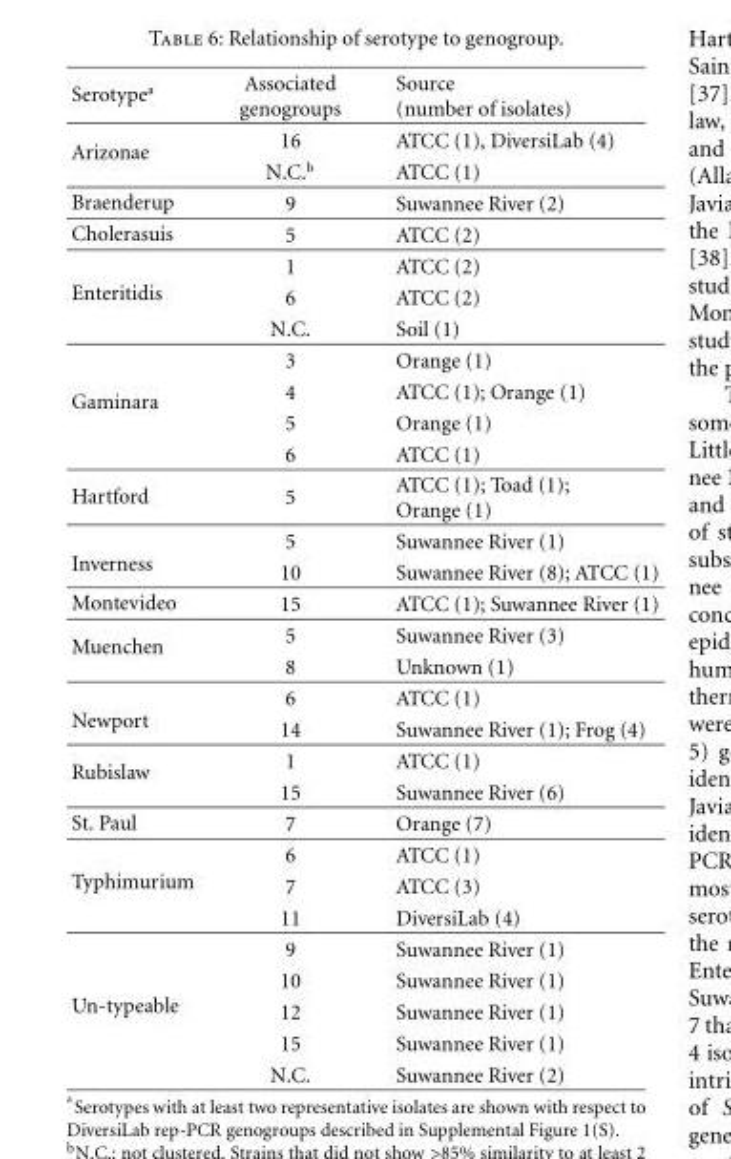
<table><thead><tr><td>Serotypea</td><td>Associated genogroups</td><td>Source (number of isolates)</td></tr></thead><tbody><tr><td rowspan="2">Arizonae</td><td>16</td><td>ATCC (1), DiversiLab (4)</td></tr><tr><td>N.C.b</td><td>ATCC (1)</td></tr><tr><td>Braenderup</td><td>9</td><td>Suwannee River (2)</td></tr><tr><td>Cholerasuis</td><td>5</td><td>ATCC (2)</td></tr><tr><td rowspan="3">Enteritidis</td><td>1</td><td>ATCC (2)</td></tr><tr><td>6</td><td>ATCC (2)</td></tr><tr><td>N.C.</td><td>Soil (1)</td></tr><tr><td rowspan="4">Gaminara</td><td>3</td><td>Orange (1)</td></tr><tr><td>4</td><td>ATCC (1); Orange (1)</td></tr><tr><td>5</td><td>Orange (1)</td></tr><tr><td>6</td><td>ATCC (1)</td></tr><tr><td>Hartford</td><td>5</td><td>ATCC (1); Toad (1); Orange (1)</td></tr><tr><td rowspan="2">Inverness</td><td>5</td><td>Suwannee River (1)</td></tr><tr><td>10</td><td>Suwannee River (8); ATCC (1)</td></tr><tr><td>Montevideo</td><td>15</td><td>ATCC (1); Suwannee River (1)</td></tr><tr><td rowspan="2">Muenchen</td><td>5</td><td>Suwannee River (3)</td></tr><tr><td>8</td><td>Unknown (1)</td></tr><tr><td rowspan="2">Newport</td><td>6</td><td>ATCC (1)</td></tr><tr><td>14</td><td>Suwannee River (1); Frog (4)</td></tr><tr><td rowspan="2">Rubislaw</td><td>1</td><td>ATCC (1)</td></tr><tr><td>15</td><td>Suwannee River (6)</td></tr><tr><td>St. Paul</td><td>7</td><td>Orange (7)</td></tr><tr><td rowspan="3">Typhimurium</td><td>6</td><td>ATCC (1)</td></tr><tr><td>7</td><td>ATCC (3)</td></tr><tr><td>11</td><td>DiversiLab (4)</td></tr><tr><td rowspan="5">Un-typeable</td><td>9</td><td>Suwannee River (1)</td></tr><tr><td>10</td><td>Suwannee River (1)</td></tr><tr><td>12</td><td>Suwannee River (1)</td></tr><tr><td>15</td><td>Suwannee River (1)</td></tr><tr><td>N.C.</td><td>Suwannee River (2)</td></tr></tbody></table>